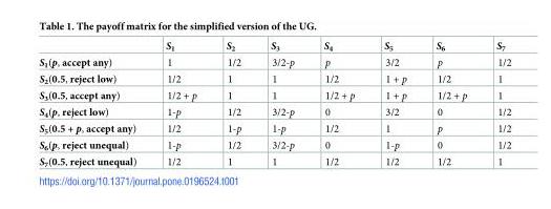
<table><thead><tr><td></td><td>S<sub>1</sub></td><td>S<sub>2</sub></td><td>S<sub>3</sub></td><td>S<sub>4</sub></td><td>S<sub>5</sub></td><td>S<sub>6</sub></td><td>S<sub>7</sub></td></tr></thead><tbody><tr><td>S<sub>1</sub>(p, accept any)</td><td>1</td><td>1/2</td><td>3/2-p</td><td>p</td><td>3/2</td><td>p</td><td>1/2</td></tr><tr><td>S<sub>2</sub>(0.5, reject low)</td><td>1/2</td><td>1</td><td>1</td><td>1/2</td><td>1 + p</td><td>1/2</td><td>1</td></tr><tr><td>S<sub>3</sub>(0.5, accept any)</td><td>1/2 + p</td><td>1</td><td>1</td><td>1/2 + p</td><td>1 + p</td><td>1/2 + p</td><td>1</td></tr><tr><td>S<sub>4</sub>(p, reject low)</td><td>1-p</td><td>1/2</td><td>3/2-p</td><td>0</td><td>3/2</td><td>0</td><td>1/2</td></tr><tr><td>S<sub>5</sub>(0.5 + p, accept any)</td><td>1/2</td><td>1-p</td><td>1-p</td><td>1/2</td><td>1</td><td>p</td><td>1/2</td></tr><tr><td>S<sub>6</sub>(p, reject unequal)</td><td>1-p</td><td>1/2</td><td>3/2-p</td><td>0</td><td>1-p</td><td>0</td><td>1/2</td></tr><tr><td>S<sub>7</sub>(0.5, reject unequal)</td><td>1/2</td><td>1</td><td>1</td><td>1/2</td><td>1/2</td><td>1/2</td><td>1</td></tr></tbody></table>